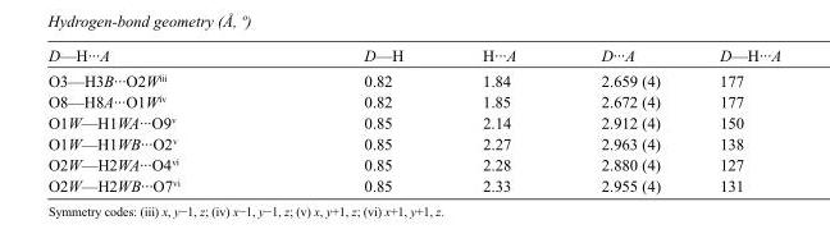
<table><tbody><tr><td>D—H···A</td><td>D—H</td><td>H···A</td><td>D···A</td><td>D—H···A</td></tr><tr><td>O3—H3B···O2W<sup>iii</sup></td><td>0.82</td><td>1.84</td><td>2.659 (4)</td><td>177</td></tr><tr><td>O8—H8A···O1W<sup>iv</sup></td><td>0.82</td><td>1.85</td><td>2.672 (4)</td><td>177</td></tr><tr><td>O1W—H1WA···O9<sup>v</sup></td><td>0.85</td><td>2.14</td><td>2.912 (4)</td><td>150</td></tr><tr><td>O1W—H1WB···O2<sup>v</sup></td><td>0.85</td><td>2.27</td><td>2.963 (4)</td><td>138</td></tr><tr><td>O2W—H2WA···O4<sup>vi</sup></td><td>0.85</td><td>2.28</td><td>2.880 (4)</td><td>127</td></tr><tr><td>O2W—H2WB···O7<sup>vi</sup></td><td>0.85</td><td>2.33</td><td>2.955 (4)</td><td>131</td></tr></tbody></table>